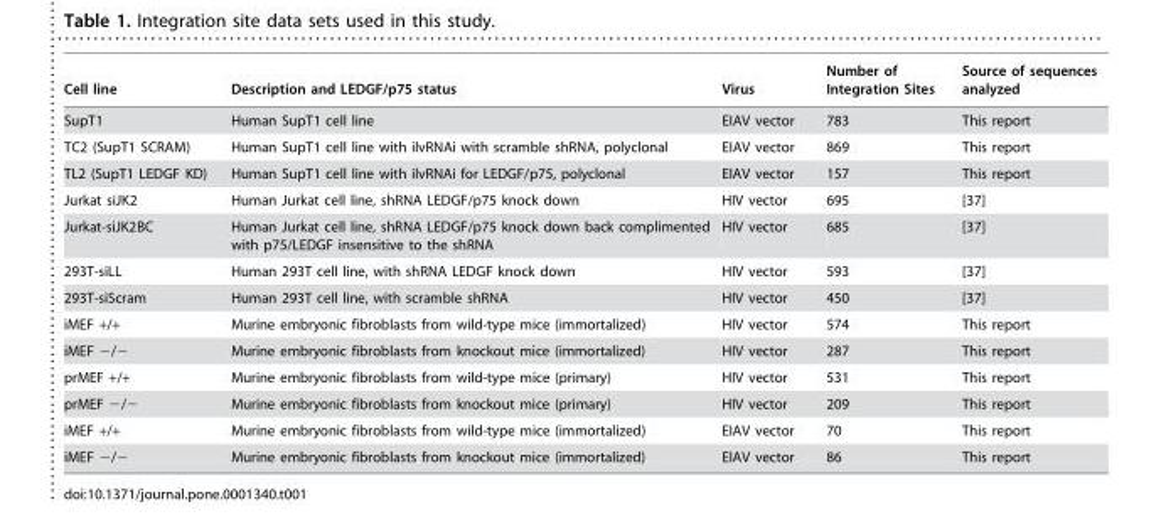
<table><thead><tr><td>Cell line</td><td>Description and LEDGF/p75 status</td><td>Virus</td><td>Number of Integration Sites</td><td>Source of sequences analyzed</td></tr></thead><tbody><tr><td>SupT1</td><td>Human SupT1 cell line</td><td>EIAV vector</td><td>783</td><td>This report</td></tr><tr><td>TC2 (SupT1 SCRAM)</td><td>Human SupT1 cell line with ilvRNAi with scramble shRNA, polyclonal</td><td>EIAV vector</td><td>869</td><td>This report</td></tr><tr><td>TL2 (SupT1 LEDGF KD)</td><td>Human SupT1 cell line with ilvRNAi for LEDGF/p75, polyclonal</td><td>EIAV vector</td><td>157</td><td>This report</td></tr><tr><td>Jurkat siJK2</td><td>Human Jurkat cell line, shRNA LEDGF/p75 knock down</td><td>HIV vector</td><td>695</td><td>[37]</td></tr><tr><td>Jurkat-siJK2BC</td><td>Human Jurkat cell line, shRNA LEDGF/p75 knock down back complimented with p75/LEDGF insensitive to the shRNA</td><td>HIV vector</td><td>685</td><td>[37]</td></tr><tr><td>293T-siLL</td><td>Human 293T cell line, with shRNA LEDGF knock down</td><td>HIV vector</td><td>593</td><td>[37]</td></tr><tr><td>293T-siScram</td><td>Human 293T cell line, with scramble shRNA</td><td>HIV vector</td><td>450</td><td>[37]</td></tr><tr><td>iMEF +/+</td><td>Murine embryonic fibroblasts from wild-type mice (immortalized)</td><td>HIV vector</td><td>574</td><td>This report</td></tr><tr><td>iMEF −/−</td><td>Murine embryonic fibroblasts from knockout mice (immortalized)</td><td>HIV vector</td><td>287</td><td>This report</td></tr><tr><td>prMEF +/+</td><td>Murine embryonic fibroblasts from wild-type mice (primary)</td><td>HIV vector</td><td>531</td><td>This report</td></tr><tr><td>prMEF −/−</td><td>Murine embryonic fibroblasts from knockout mice (primary)</td><td>HIV vector</td><td>209</td><td>This report</td></tr><tr><td>iMEF +/+</td><td>Murine embryonic fibroblasts from wild-type mice (immortalized)</td><td>EIAV vector</td><td>70</td><td>This report</td></tr><tr><td>iMEF −/−</td><td>Murine embryonic fibroblasts from knockout mice (immortalized)</td><td>EIAV vector</td><td>86</td><td>This report</td></tr></tbody></table>